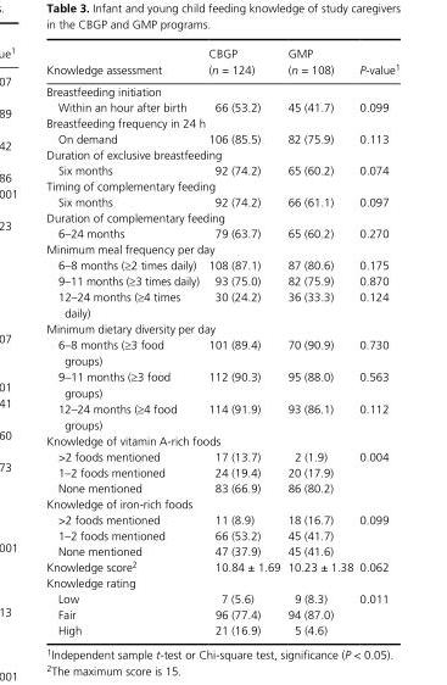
<table><thead><tr><td>Knowledge assessment</td><td>CBGP (n = 124)</td><td>GMP (n = 108)</td><td>P-value1</td></tr></thead><tbody><tr><td colspan="4">Breastfeeding initiation</td></tr><tr><td>Within an hour after birth</td><td>66 (53.2)</td><td>45 (41.7)</td><td>0.099</td></tr><tr><td colspan="4">Breastfeeding frequency in 24 h</td></tr><tr><td>On demand</td><td>106 (85.5)</td><td>82 (75.9)</td><td>0.113</td></tr><tr><td colspan="4">Duration of exclusive breastfeeding</td></tr><tr><td>Six months</td><td>92 (74.2)</td><td>65 (60.2)</td><td>0.074</td></tr><tr><td colspan="4">Timing of complementary feeding</td></tr><tr><td>Six months</td><td>92 (74.2)</td><td>66 (61.1)</td><td>0.097</td></tr><tr><td colspan="4">Duration of complementary feeding</td></tr><tr><td>6–24 months</td><td>79 (63.7)</td><td>65 (60.2)</td><td>0.270</td></tr><tr><td colspan="4">Minimum meal frequency per day</td></tr><tr><td>6–8 months (≥2 times daily)</td><td>108 (87.1)</td><td>87 (80.6)</td><td>0.175</td></tr><tr><td>9–11 months (≥3 times daily)</td><td>93 (75.0)</td><td>82 (75.9)</td><td>0.870</td></tr><tr><td>12–24 months (≥4 times daily)</td><td>30 (24.2)</td><td>36 (33.3)</td><td>0.124</td></tr><tr><td colspan="4">Minimum dietary diversity per day</td></tr><tr><td>6–8 months (≥3 food groups)</td><td>101 (89.4)</td><td>70 (90.9)</td><td>0.730</td></tr><tr><td>9–11 months (≥3 food groups)</td><td>112 (90.3)</td><td>95 (88.0)</td><td>0.563</td></tr><tr><td>12–24 months (≥4 food groups)</td><td>114 (91.9)</td><td>93 (86.1)</td><td>0.112</td></tr><tr><td colspan="4">Knowledge of vitamin A- rich foods</td></tr><tr><td>&gt;2 foods mentioned</td><td>17 (13.7)</td><td>2 (1.9)</td><td rowspan="3">0.004</td></tr><tr><td>1–2 foods mentioned</td><td>24 (19.4)</td><td>20 (17.9)</td></tr><tr><td>None mentioned</td><td>83 (66.9)</td><td>86 (80.2)</td></tr><tr><td colspan="4">Knowledge of iron- rich foods</td></tr><tr><td>&gt;2 foods mentioned</td><td>11 (8.9)</td><td>18 (16.7)</td><td rowspan="3">0.099</td></tr><tr><td>1–2 foods mentioned</td><td>66 (53.2)</td><td>45 (41.7)</td></tr><tr><td>None mentioned</td><td>47 (37.9)</td><td>45 (41.6)</td></tr><tr><td>Knowledge score2</td><td>10.84 ± 1.69</td><td>10.23 ± 1.38</td><td>0.062</td></tr><tr><td colspan="4">Knowledge rating</td></tr><tr><td>Low</td><td>7 (5.6)</td><td>9 (8.3)</td><td rowspan="3">0.011</td></tr><tr><td>Fair</td><td>96 (77.4)</td><td>94 (87.0)</td></tr><tr><td>High</td><td>21 (16.9)</td><td>5 (4.6)</td></tr></tbody></table>